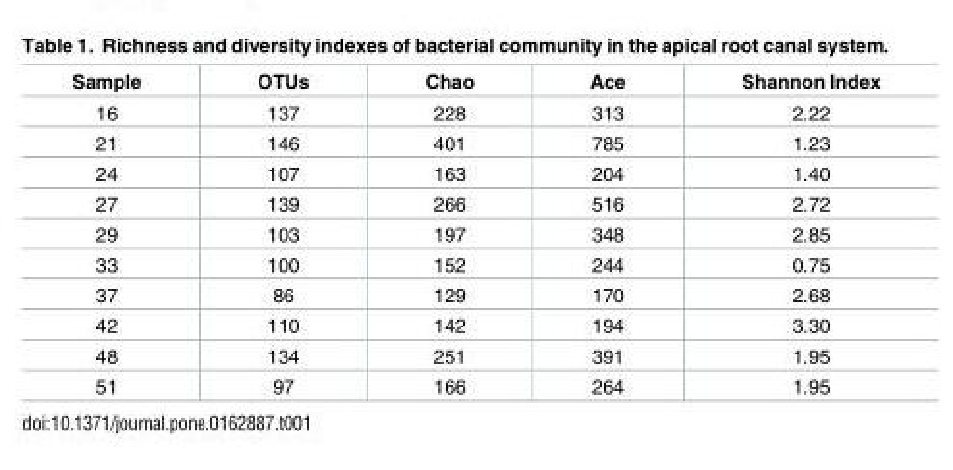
<table><thead><tr><td>Sample</td><td>OTUs</td><td>Chao</td><td>Ace</td><td>Shannon Index</td></tr></thead><tbody><tr><td>16</td><td>137</td><td>228</td><td>313</td><td>2.22</td></tr><tr><td>21</td><td>146</td><td>401</td><td>785</td><td>1.23</td></tr><tr><td>24</td><td>107</td><td>163</td><td>204</td><td>1.40</td></tr><tr><td>27</td><td>139</td><td>266</td><td>516</td><td>2.72</td></tr><tr><td>29</td><td>103</td><td>197</td><td>348</td><td>2.85</td></tr><tr><td>33</td><td>100</td><td>152</td><td>244</td><td>0.75</td></tr><tr><td>37</td><td>86</td><td>129</td><td>170</td><td>2.68</td></tr><tr><td>42</td><td>110</td><td>142</td><td>194</td><td>3.30</td></tr><tr><td>48</td><td>134</td><td>251</td><td>391</td><td>1.95</td></tr><tr><td>51</td><td>97</td><td>166</td><td>264</td><td>1.95</td></tr></tbody></table>